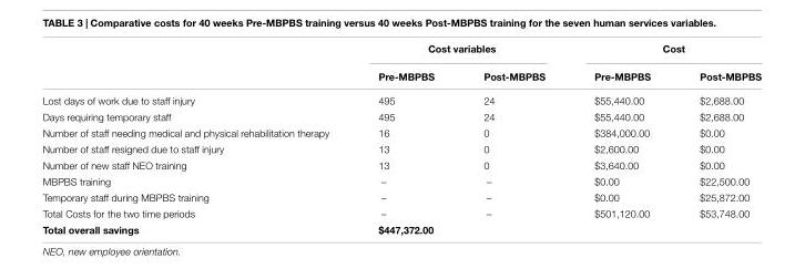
<table><thead><tr><td rowspan="2"></td><td colspan="2">Cost variables</td><td colspan="2">Cost</td></tr><tr><td>Pre-MBPBS</td><td>Post-MBPBS</td><td>Pre-MBPBS</td><td>Post-MBPBS</td></tr></thead><tbody><tr><td>Lost days of work due to staff injury</td><td>495</td><td>24</td><td>$55,440.00</td><td>$2,688.00</td></tr><tr><td>Days requiring temporary staff</td><td>495</td><td>24</td><td>$55,440.00</td><td>$2,688.00</td></tr><tr><td>Number of staff needing medical and physical rehabilitation therapy</td><td>16</td><td>0</td><td>$384,000.00</td><td>$0.00</td></tr><tr><td>Number of staff resigned due to staff injury</td><td>13</td><td>0</td><td>$2,600.00</td><td>$0.00</td></tr><tr><td>Number of new staff NEO training</td><td>13</td><td>0</td><td>$3,640.00</td><td>$0.00</td></tr><tr><td>MBPBS training</td><td>–</td><td>–</td><td>$0.00</td><td>$22,500.00</td></tr><tr><td>Temporary staff during MBPBS training</td><td>–</td><td>–</td><td>$0.00</td><td>$25,872.00</td></tr><tr><td>Total Costs for the two time periods</td><td>–</td><td>–</td><td>$501,120.00</td><td>$53,748.00</td></tr><tr><td>Total overall savings</td><td>$447,372.00</td><td></td><td></td><td></td></tr></tbody></table>